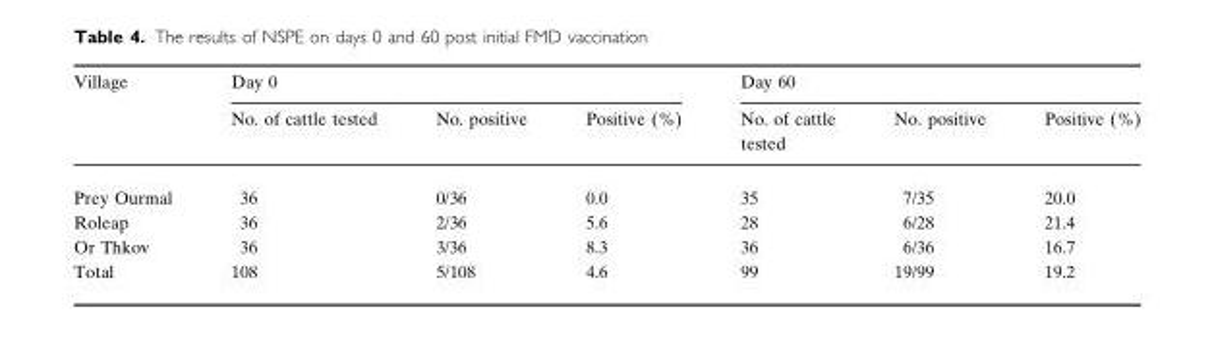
<table><thead><tr><td rowspan="2">Village</td><td colspan="3">Day 0</td><td colspan="3">Day 60</td></tr><tr><td>No. of cattle tested</td><td>No. positive</td><td>Positive (%)</td><td>No. of cattle tested</td><td>No. positive</td><td>Positive (%)</td></tr></thead><tbody><tr><td>Prey Ourmal</td><td>36</td><td>0/36</td><td>0.0</td><td>35</td><td>7/35</td><td>20.0</td></tr><tr><td>Roleap</td><td>36</td><td>2/36</td><td>5.6</td><td>28</td><td>6/28</td><td>21.4</td></tr><tr><td>Or Thkov</td><td>36</td><td>3/36</td><td>8.3</td><td>36</td><td>6/36</td><td>16.7</td></tr><tr><td>Total</td><td>108</td><td>5/108</td><td>4.6</td><td>99</td><td>19/99</td><td>19.2</td></tr></tbody></table>